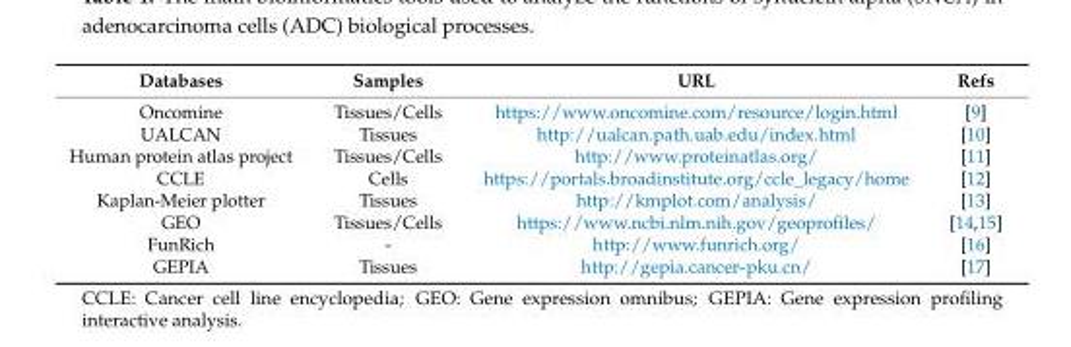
<table><thead><tr><td>Databases</td><td>Samples</td><td>URL</td><td>Refs</td></tr></thead><tbody><tr><td>Oncomine</td><td>Tissues/Cells</td><td>https://www.oncomine.com/resource/login.html</td><td>[9]</td></tr><tr><td>UALCAN</td><td>Tissues</td><td>http://ualcan.path.uab.edu/index.html</td><td>[10]</td></tr><tr><td>Human protein atlas project</td><td>Tissues/Cells</td><td>http://www.proteinatlas.org/</td><td>[11]</td></tr><tr><td>CCLE</td><td>Cells</td><td>https://portals.broadinstitute.org/ccle_legacy/home</td><td>[12]</td></tr><tr><td>Kaplan-Meier plotter</td><td>Tissues</td><td>http://kmplot.com/analysis/</td><td>[13]</td></tr><tr><td>GEO</td><td>Tissues/Cells</td><td>https://www.ncbi.nlm.nih.gov/geoprofiles/</td><td>[14,15]</td></tr><tr><td>FunRich</td><td>-</td><td>http://www.funrich.org/</td><td>[16]</td></tr><tr><td>GEPIA</td><td>Tissues</td><td>http://gepia.cancer-pku.cn/</td><td>[17]</td></tr></tbody></table>